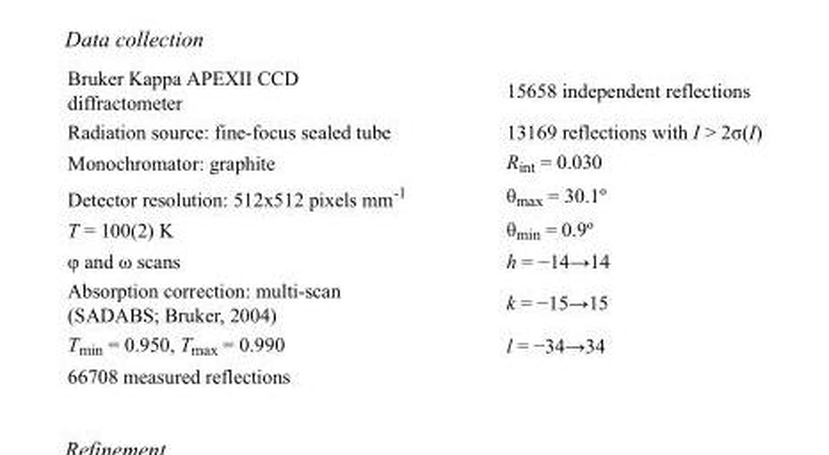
<table><tbody><tr><td>Bruker Kappa APEXII CCD diffractometer</td><td>15658 independent reflections</td></tr><tr><td>Radiation source: fine-focus sealed tube</td><td>13169 reflections with I &gt; 2σ(I)</td></tr><tr><td>Monochromator: graphite</td><td>R<sub>int</sub> = 0.030</td></tr><tr><td>Detector resolution: 512x512 pixels mm<sup>-1</sup></td><td>θ<sub>max</sub> = 30.1º</td></tr><tr><td>T = 100(2) K</td><td>θ<sub>min</sub> = 0.9º</td></tr><tr><td>φ and ω scans</td><td>h = −14→14</td></tr><tr><td>Absorption correction: multi-scan (SADABS; Bruker, 2004)</td><td>k = −15→15</td></tr><tr><td>T<sub>min</sub> = 0.950, T<sub>max</sub> = 0.990</td><td>l = −34→34</td></tr><tr><td>66708 measured reflections</td><td></td></tr></tbody></table>